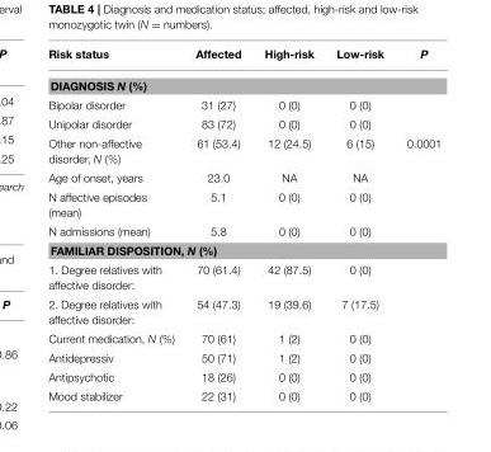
<table><thead><tr><td>Risk status</td><td>Affected</td><td>High-risk</td><td>Low-risk</td><td>P</td></tr></thead><tbody><tr><td colspan="5">DIAGNOSIS N (%)</td></tr><tr><td>Bipolar disorder</td><td>31 (27)</td><td>0 (0)</td><td>0 (0)</td><td></td></tr><tr><td>Unipolar disorder</td><td>83 (72)</td><td>0 (0)</td><td>0 (0)</td><td></td></tr><tr><td>Other non-affective disorder, N (%)</td><td>61 (53.4)</td><td>12 (24.5)</td><td>6 (15)</td><td>0.0001</td></tr><tr><td>Age of onset, years</td><td>23.0</td><td>NA</td><td>NA</td><td></td></tr><tr><td>N affective episodes (mean)</td><td>5.1</td><td>0 (0)</td><td>0 (0)</td><td></td></tr><tr><td>N admissions (mean)</td><td>5.8</td><td>0 (0)</td><td>0 (0)</td><td></td></tr><tr><td colspan="5">FAMILIAR DISPOSITION, N (%)</td></tr><tr><td>1. Degree relatives with affective disorder:</td><td>70 (61.4)</td><td>42 (87.5)</td><td>0 (0)</td><td></td></tr><tr><td>2. Degree relatives with affective disorder:</td><td>54 (47.3)</td><td>19 (39.6)</td><td>7 (17.5)</td><td></td></tr><tr><td>Current medication, N (%)</td><td>70 (61)</td><td>1 (2)</td><td>0 (0)</td><td></td></tr><tr><td>Antidepressiv</td><td>50 (71)</td><td>1 (2)</td><td>0 (0)</td><td></td></tr><tr><td>Antipsychotic</td><td>18 (26)</td><td>0 (0)</td><td>0 (0)</td><td></td></tr><tr><td>Mood stabilizer</td><td>22 (31)</td><td>0 (0)</td><td>0 (0)</td><td></td></tr></tbody></table>